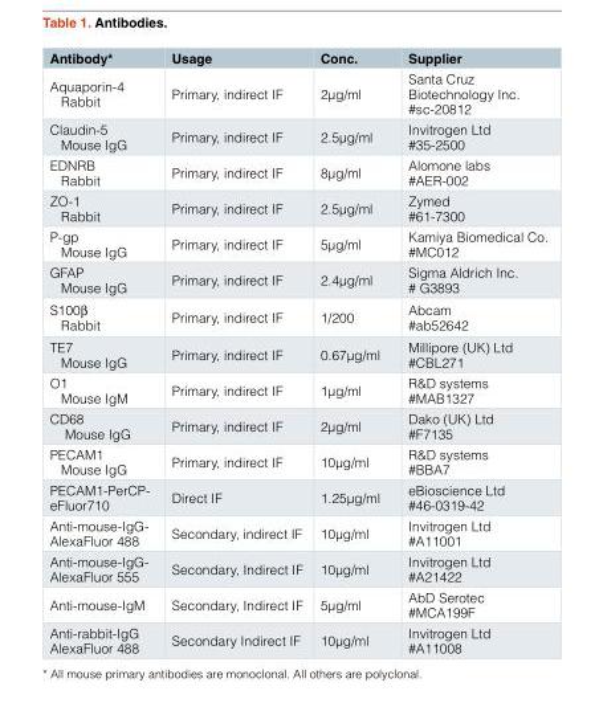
<table><thead><tr><td>Antibody*</td><td>Usage</td><td>Conc.</td><td>Supplier</td></tr></thead><tbody><tr><td>Aquaporin-4 Rabbit</td><td>Primary, indirect IF</td><td>2μg/ml</td><td>Santa Cruz Biotechnology Inc. #sc-20812</td></tr><tr><td>Claudin-5 Mouse IgG</td><td>Primary, indirect IF</td><td>2.5μg/ml</td><td>Invitrogen Ltd #35-2500</td></tr><tr><td>EDNRB Rabbit</td><td>Primary, indirect IF</td><td>8μg/ml</td><td>Alomone labs #AER-002</td></tr><tr><td>ZO-1 Rabbit</td><td>Primary, indirect IF</td><td>2.5μg/ml</td><td>Zymed #61-7300</td></tr><tr><td>P-gp Mouse IgG</td><td>Primary, indirect IF</td><td>5μg/ml</td><td>Kamiya Biomedical Co. #MC012</td></tr><tr><td>GFAP Mouse IgG</td><td>Primary, indirect IF</td><td>2.4μg/ml</td><td>Sigma Aldrich Inc. # G3893</td></tr><tr><td>S100β Rabbit</td><td>Primary, indirect IF</td><td>1/200</td><td>Abcam #ab52642</td></tr><tr><td>TE7 Mouse IgG</td><td>Primary, indirect IF</td><td>0.67μg/ml</td><td>Millipore (UK) Ltd #CBL271</td></tr><tr><td>O1 Mouse IgM</td><td>Primary, indirect IF</td><td>1μg/ml</td><td>R&amp;D systems #MAB1327</td></tr><tr><td>CD68 Mouse IgG</td><td>Primary, indirect IF</td><td>2μg/ml</td><td>Dako (UK) Ltd #F7135</td></tr><tr><td>PECAM1 Mouse IgG</td><td>Primary, indirect IF</td><td>10μg/ml</td><td>R&amp;D systems #BBA7</td></tr><tr><td>PECAM1-PerCP- eFluor710</td><td>Direct IF</td><td>1.25μg/ml</td><td>eBioscience Ltd #46-0319-42</td></tr><tr><td>Anti-mouse-IgG- AlexaFluor 488</td><td>Secondary, indirect IF</td><td>10μg/ml</td><td>Invitrogen Ltd #A11001</td></tr><tr><td>Anti-mouse-IgG- AlexaFluor 555</td><td>Secondary, Indirect IF</td><td>10μg/ml</td><td>Invitrogen Ltd #A21422</td></tr><tr><td>Anti-mouse-IgM</td><td>Secondary, Indirect IF</td><td>5μg/ml</td><td>AbD Serotec #MCA199F</td></tr><tr><td>Anti-rabbit-IgG AlexaFluor 488</td><td>Secondary Indirect IF</td><td>10μg/ml</td><td>Invitrogen Ltd #A11008</td></tr></tbody></table>